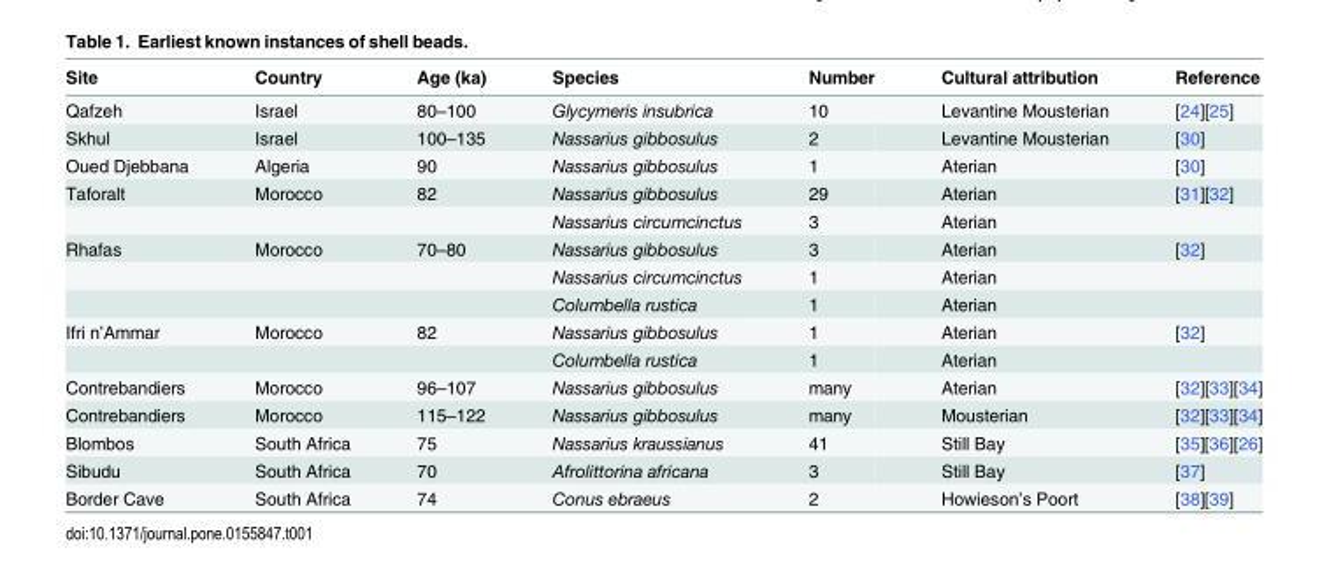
<table><thead><tr><td>Site</td><td>Country</td><td>Age (ka)</td><td>Species</td><td>Number</td><td>Cultural attribution</td><td>Reference</td></tr></thead><tbody><tr><td>Qafzeh</td><td>Israel</td><td>80–100</td><td>Glycymeris insubrica</td><td>10</td><td>Levantine Mousterian</td><td>[24][25]</td></tr><tr><td>Skhul</td><td>Israel</td><td>100–135</td><td>Nassarius gibbosulus</td><td>2</td><td>Levantine Mousterian</td><td>[30]</td></tr><tr><td>Oued Djebbana</td><td>Algeria</td><td>90</td><td>Nassarius gibbosulus</td><td>1</td><td>Aterian</td><td>[30]</td></tr><tr><td rowspan="2">Taforalt</td><td>Morocco</td><td>82</td><td>Nassarius gibbosulus</td><td>29</td><td>Aterian</td><td>[31][32]</td></tr><tr><td></td><td></td><td>Nassarius circumcinctus</td><td>3</td><td>Aterian</td><td></td></tr><tr><td rowspan="3">Rhafas</td><td>Morocco</td><td>70–80</td><td>Nassarius gibbosulus</td><td>3</td><td>Aterian</td><td>[32]</td></tr><tr><td></td><td></td><td>Nassarius circumcinctus</td><td>1</td><td>Aterian</td><td></td></tr><tr><td></td><td></td><td>Columbella rustica</td><td>1</td><td>Aterian</td><td></td></tr><tr><td rowspan="2">Ifri n’Ammar</td><td>Morocco</td><td>82</td><td>Nassarius gibbosulus</td><td>1</td><td>Aterian</td><td>[32]</td></tr><tr><td></td><td></td><td>Columbella rustica</td><td>1</td><td>Aterian</td><td></td></tr><tr><td>Contrebandiers</td><td>Morocco</td><td>96–107</td><td>Nassarius gibbosulus</td><td>many</td><td>Aterian</td><td>[32][33][34]</td></tr><tr><td>Contrebandiers</td><td>Morocco</td><td>115–122</td><td>Nassarius gibbosulus</td><td>many</td><td>Mousterian</td><td>[32][33][34]</td></tr><tr><td>Blombos</td><td>South Africa</td><td>75</td><td>Nassarius kraussianus</td><td>41</td><td>Still Bay</td><td>[35][36][26]</td></tr><tr><td>Sibudu</td><td>South Africa</td><td>70</td><td>Afrolittorina africana</td><td>3</td><td>Still Bay</td><td>[37]</td></tr><tr><td>Border Cave</td><td>South Africa</td><td>74</td><td>Conus ebraeus</td><td>2</td><td>Howieson’s Poort</td><td>[38][39]</td></tr></tbody></table>